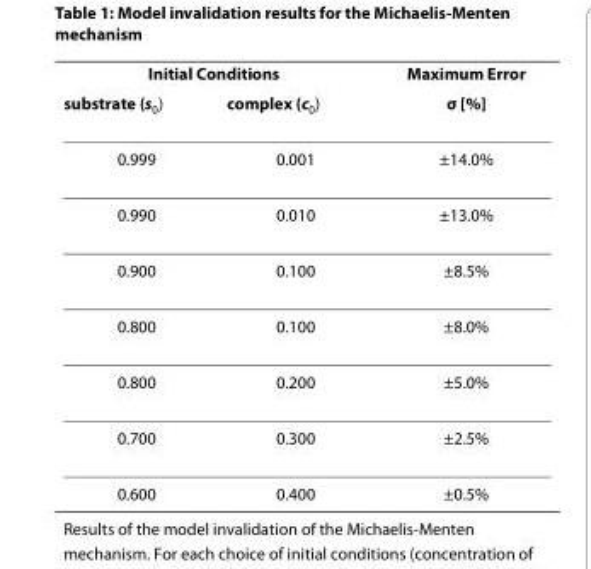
<table><thead><tr><td colspan="2">Initial Conditions</td><td rowspan="2">Maximum Error σ [%]</td></tr><tr><td>substrate (s<sub>0</sub>)</td><td>complex (c<sub>0</sub>)</td></tr></thead><tbody><tr><td>0.999</td><td>0.001</td><td>±14.0%</td></tr><tr><td>0.990</td><td>0.010</td><td>±13.0%</td></tr><tr><td>0.900</td><td>0.100</td><td>±8.5%</td></tr><tr><td>0.800</td><td>0.100</td><td>±8.0%</td></tr><tr><td>0.800</td><td>0.200</td><td>±5.0%</td></tr><tr><td>0.700</td><td>0.300</td><td>±2.5%</td></tr><tr><td>0.600</td><td>0.400</td><td>±0.5%</td></tr></tbody></table>